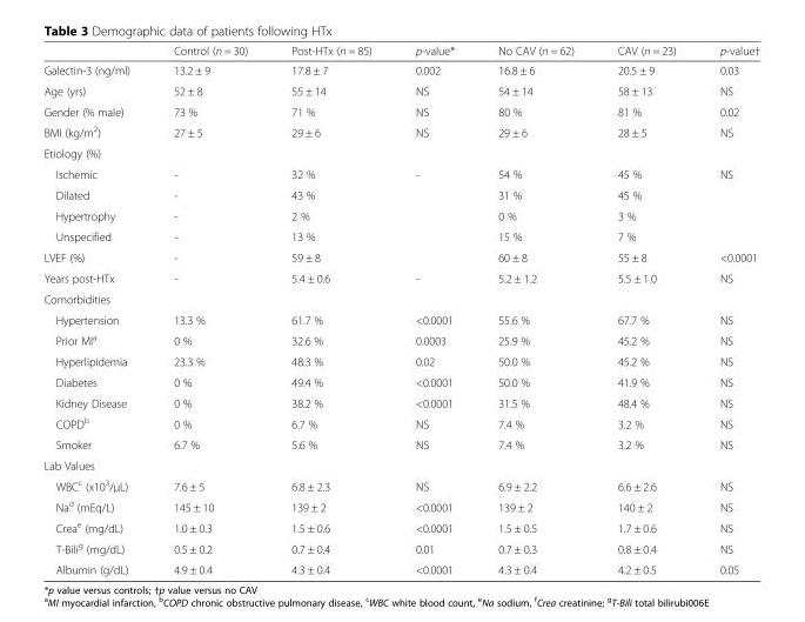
<table><thead><tr><td></td><td>Control (n = 30)</td><td>Post-HTx (n = 85)</td><td>p-value*</td><td>No CAV (n = 62)</td><td>CAV (n = 23)</td><td>p-value†</td></tr></thead><tbody><tr><td>Galectin-3 (ng/ml)</td><td>13.2 ± 9</td><td>17.8 ± 7</td><td>0.002</td><td>16.8 ± 6</td><td>20.5 ± 9</td><td>0.03</td></tr><tr><td>Age (yrs)</td><td>52 ± 8</td><td>55 ± 14</td><td>NS</td><td>54 ± 14</td><td>58 ± 13</td><td>NS</td></tr><tr><td>Gender (% male)</td><td>73 %</td><td>71 %</td><td>NS</td><td>80 %</td><td>81 %</td><td>0.02</td></tr><tr><td>BMI (kg/m<sup>2</sup>)</td><td>27 ± 5</td><td>29 ± 6</td><td>NS</td><td>29 ± 6</td><td>28 ± 5</td><td>NS</td></tr><tr><td colspan="7">Etiology (%)</td></tr><tr><td>Ischemic</td><td>-</td><td>32 %</td><td>-</td><td>54 %</td><td>45 %</td><td>NS</td></tr><tr><td>Dilated</td><td>-</td><td>43 %</td><td></td><td>31 %</td><td>45 %</td><td></td></tr><tr><td>Hypertrophy</td><td>-</td><td>2 %</td><td></td><td>0 %</td><td>3 %</td><td></td></tr><tr><td>Unspecified</td><td>-</td><td>13 %</td><td></td><td>15 %</td><td>7 %</td><td></td></tr><tr><td>LVEF (%)</td><td>-</td><td>59 ± 8</td><td></td><td>60 ± 8</td><td>55 ± 8</td><td>&lt;0.0001</td></tr><tr><td>Years post-HTx</td><td>-</td><td>5.4 ± 0.6</td><td>-</td><td>5.2 ± 1.2</td><td>5.5 ± 1.0</td><td>NS</td></tr><tr><td colspan="7">Comorbidities</td></tr><tr><td>Hypertension</td><td>13.3 %</td><td>61.7 %</td><td>&lt;0.0001</td><td>55.6 %</td><td>67.7 %</td><td>NS</td></tr><tr><td>Prior MI<sup>a</sup></td><td>0 %</td><td>32.6 %</td><td>0.0003</td><td>25.9 %</td><td>45.2 %</td><td>NS</td></tr><tr><td>Hyperlipidemia</td><td>23.3 %</td><td>48.3 %</td><td>0.02</td><td>50.0 %</td><td>45.2 %</td><td>NS</td></tr><tr><td>Diabetes</td><td>0 %</td><td>49.4 %</td><td>&lt;0.0001</td><td>50.0 %</td><td>41.9 %</td><td>NS</td></tr><tr><td>Kidney Disease</td><td>0 %</td><td>38.2 %</td><td>&lt;0.0001</td><td>31.5 %</td><td>48.4 %</td><td>NS</td></tr><tr><td>COPD<sup>b</sup></td><td>0 %</td><td>6.7 %</td><td>NS</td><td>7.4 %</td><td>3.2 %</td><td>NS</td></tr><tr><td>Smoker</td><td>6.7 %</td><td>5.6 %</td><td>NS</td><td>7.4 %</td><td>3.2 %</td><td>NS</td></tr><tr><td colspan="7">Lab Values</td></tr><tr><td>WBC<sup>c</sup> (x10<sup>3</sup>/μL)</td><td>7.6 ± 5</td><td>6.8 ± 2.3</td><td>NS</td><td>6.9 ± 2.2</td><td>6.6 ± 2.6</td><td>NS</td></tr><tr><td>Na<sup>d</sup> (mEq/L)</td><td>145 ± 10</td><td>139 ± 2</td><td>&lt;0.0001</td><td>139 ± 2</td><td>140 ± 2</td><td>NS</td></tr><tr><td>Crea<sup>e</sup> (mg/dL)</td><td>1.0 ± 0.3</td><td>1.5 ± 0.6</td><td>&lt;0.0001</td><td>1.5 ± 0.5</td><td>1.7 ± 0.6</td><td>NS</td></tr><tr><td>T-Bili<sup>g</sup> (mg/dL)</td><td>0.5 ± 0.2</td><td>0.7 ± 0.4</td><td>0.01</td><td>0.7 ± 0.3</td><td>0.8 ± 0.4</td><td>NS</td></tr><tr><td>Albumin (g/dL)</td><td>4.9 ± 0.4</td><td>4.3 ± 0.4</td><td>&lt;0.0001</td><td>4.3 ± 0.4</td><td>4.2 ± 0.5</td><td>0.05</td></tr></tbody></table>